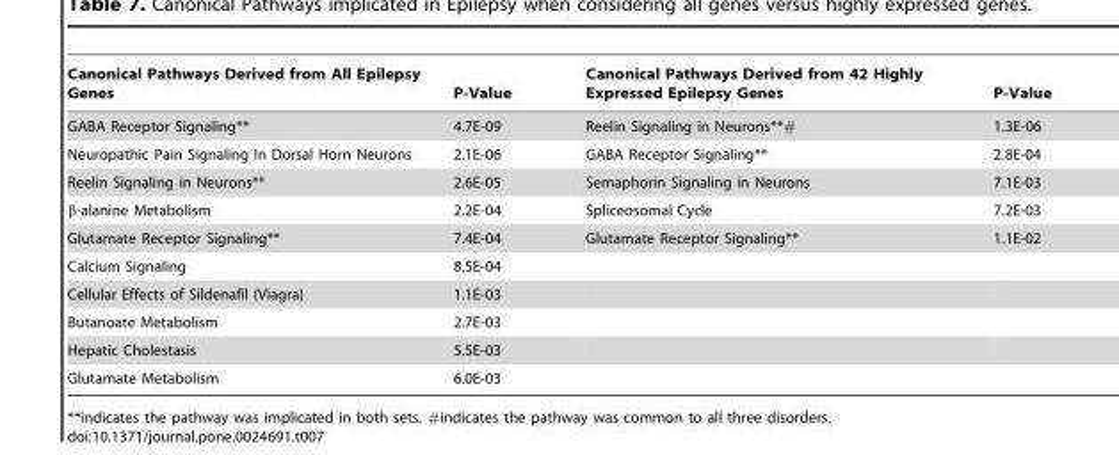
<table><thead><tr><td>Canonical Pathways Derived from All Epilepsy Genes</td><td>P-Value</td><td>Canonical Pathways Derived from 42 Highly Expressed Epilepsy Genes</td><td>P-Value</td></tr></thead><tbody><tr><td>GABA Receptor Signaling**</td><td>4.7E-09</td><td>Reelin Signaling in Neurons**#</td><td>1.3E-06</td></tr><tr><td>Neuropathic Pain Signaling In Dorsal Horn Neurons</td><td>2.1E-06</td><td>GABA Receptor Signaling**</td><td>2.8E-04</td></tr><tr><td>Reelin Signaling in Neurons**</td><td>2.6E-05</td><td>Semaphorin Signaling in Neurons</td><td>7.1E-03</td></tr><tr><td>β-alanine Metabolism</td><td>2.2E-04</td><td>Spliceosomal Cycle</td><td>7.2E-03</td></tr><tr><td>Glutamate Receptor Signaling**</td><td>7.4E-04</td><td>Glutamate Receptor Signaling**</td><td>1.1E-02</td></tr><tr><td>Calcium Signaling</td><td>8.5E-04</td><td></td><td></td></tr><tr><td>Cellular Effects of Sildenafil (Viagra)</td><td>1.1E-03</td><td></td><td></td></tr><tr><td>Butanoate Metabolism</td><td>2.7E-03</td><td></td><td></td></tr><tr><td>Hepatic Cholestasis</td><td>5.5E-03</td><td></td><td></td></tr><tr><td>Glutamate Metabolism</td><td>6.0E-03</td><td></td><td></td></tr></tbody></table>